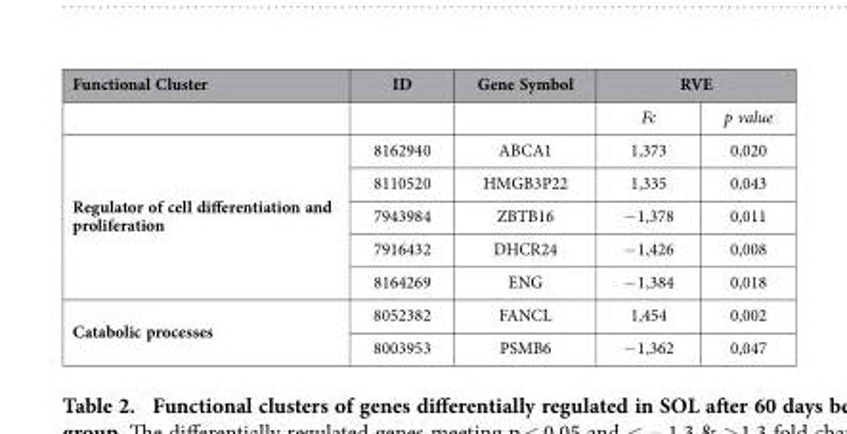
<table><thead><tr><td rowspan="2">Functional Cluster</td><td rowspan="2">ID</td><td rowspan="2">Gene Symbol</td><td colspan="2">RVE</td></tr><tr><td>Fc</td><td>p value</td></tr></thead><tbody><tr><td rowspan="5">Regulator of cell differentiation and proliferation</td><td>8162940</td><td>ABCA1</td><td>1,373</td><td>0,020</td></tr><tr><td>8110520</td><td>HMGB3P22</td><td>1,335</td><td>0,043</td></tr><tr><td>7943984</td><td>ZBTB16</td><td>− 1,378</td><td>0,011</td></tr><tr><td>7916432</td><td>DHCR24</td><td>− 1,426</td><td>0,008</td></tr><tr><td>8164269</td><td>ENG</td><td>− 1,384</td><td>0,018</td></tr><tr><td rowspan="2">Catabolic processes</td><td>8052382</td><td>FANCL</td><td>1,454</td><td>0,002</td></tr><tr><td>8003953</td><td>PSMB6</td><td>− 1,362</td><td>0,047</td></tr></tbody></table>